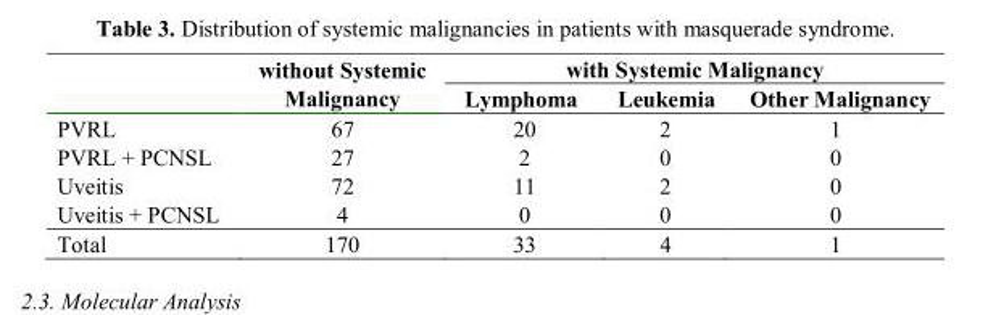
<table><thead><tr><td rowspan="2"></td><td rowspan="2">without Systemic Malignancy</td><td colspan="3">with Systemic Malignancy</td></tr><tr><td>Lymphoma</td><td>Leukemia</td><td>Other Malignancy</td></tr></thead><tbody><tr><td>PVRL</td><td>67</td><td>20</td><td>2</td><td>1</td></tr><tr><td>PVRL + PCNSL</td><td>27</td><td>2</td><td>0</td><td>0</td></tr><tr><td>Uveitis</td><td>72</td><td>11</td><td>2</td><td>0</td></tr><tr><td>Uveitis + PCNSL</td><td>4</td><td>0</td><td>0</td><td>0</td></tr><tr><td>Total</td><td>170</td><td>33</td><td>4</td><td>1</td></tr></tbody></table>